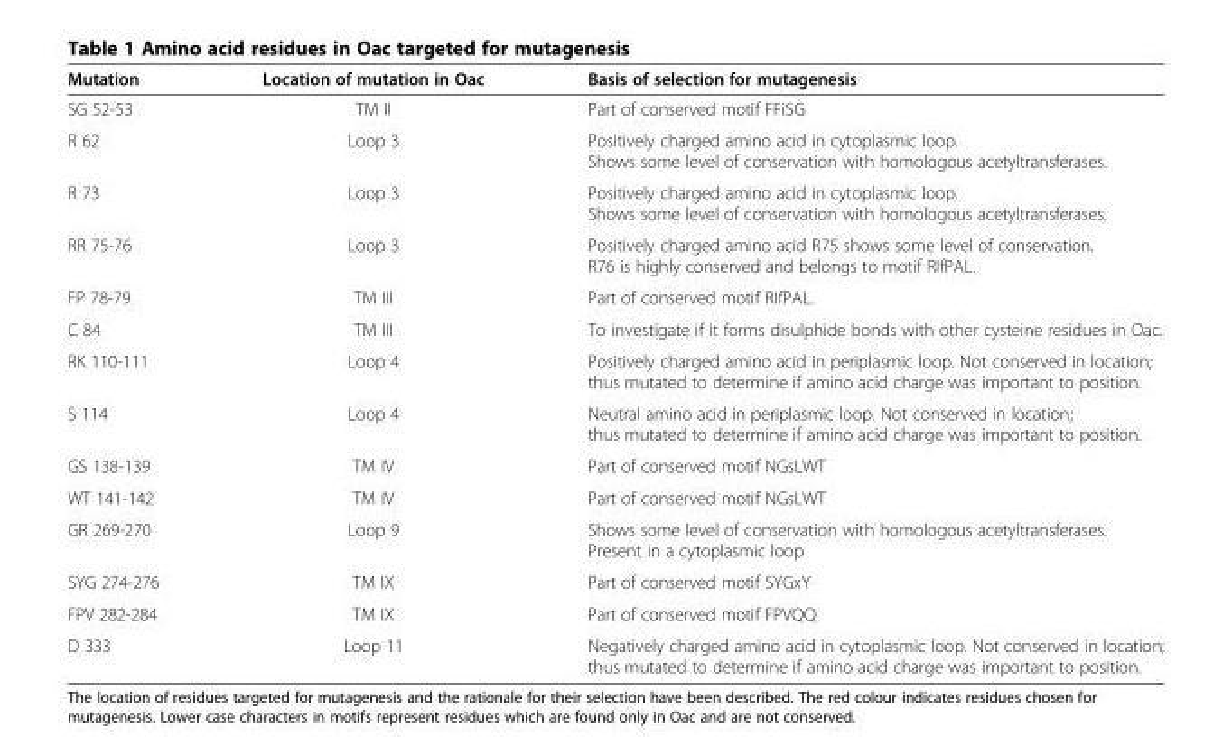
<table><thead><tr><td>Mutation</td><td>Location of mutation in Oac</td><td>Basis of selection for mutagenesis</td></tr></thead><tbody><tr><td>SG 52-53</td><td>TM II</td><td>Part of conserved motif FFiSG</td></tr><tr><td>R 62</td><td>Loop 3</td><td>Positively charged amino acid in cytoplasmic loop. Shows some level of conservation with homologous acetyltransferases.</td></tr><tr><td>R 73</td><td>Loop 3</td><td>Positively charged amino acid in cytoplasmic loop. Shows some level of conservation with homologous acetyltransferases.</td></tr><tr><td>RR 75-76</td><td>Loop 3</td><td>Positively charged amino acid R75 shows some level of conservation. R76 is highly conserved and belongs to motif RIfPAL.</td></tr><tr><td>FP 78-79</td><td>TM III</td><td>Part of conserved motif RIfPAL.</td></tr><tr><td>C 84</td><td>TM III</td><td>To investigate if it forms disulphide bonds with other cysteine residues in Oac.</td></tr><tr><td>RK 110-111</td><td>Loop 4</td><td>Positively charged amino acid in periplasmic loop. Not conserved in location; thus mutated to determine if amino acid charge was important to position.</td></tr><tr><td>S 114</td><td>Loop 4</td><td>Neutral amino acid in periplasmic loop. Not conserved in location; thus mutated to determine if amino acid charge was important to position.</td></tr><tr><td>GS 138-139</td><td>TM IV</td><td>Part of conserved motif NGsLWT</td></tr><tr><td>WT 141-142</td><td>TM IV</td><td>Part of conserved motif NGsLWT</td></tr><tr><td>GR 269-270</td><td>Loop 9</td><td>Shows some level of conservation with homologous acetyltransferases. Present in a cytoplasmic loop</td></tr><tr><td>SYG 274-276</td><td>TM IX</td><td>Part of conserved motif SYGxY</td></tr><tr><td>FPV 282-284</td><td>TM IX</td><td>Part of conserved motif FPVQQ</td></tr><tr><td>D 333</td><td>Loop 11</td><td>Negatively charged amino acid in cytoplasmic loop. Not conserved in location; thus mutated to determine if amino acid charge was important to position.</td></tr></tbody></table>